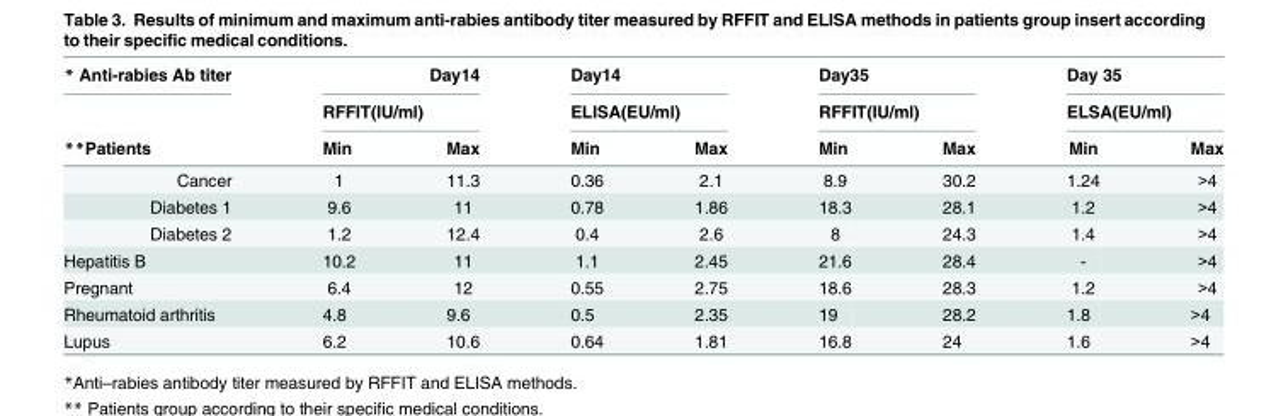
<table><thead><tr><td rowspan="3">* Anti-rabies Ab titer **Patients</td><td rowspan="2" colspan="2">Day14 RFFIT(IU/ml)</td><td rowspan="2" colspan="2">Day14 ELISA(EU/ml)</td><td rowspan="2" colspan="2">Day35 RFFIT(IU/ml)</td><td rowspan="2" colspan="2">Day 35 ELSA(EU/ml)</td></tr><tr></tr><tr><td>Min</td><td>Max</td><td>Min</td><td>Max</td><td>Min</td><td>Max</td><td>Min</td><td>Max</td></tr></thead><tbody><tr><td>Cancer</td><td>1</td><td>11.3</td><td>0.36</td><td>2.1</td><td>8.9</td><td>30.2</td><td>1.24</td><td>&gt;4</td></tr><tr><td>Diabetes 1</td><td>9.6</td><td>11</td><td>0.78</td><td>1.86</td><td>18.3</td><td>28.1</td><td>1.2</td><td>&gt;4</td></tr><tr><td>Diabetes 2</td><td>1.2</td><td>12.4</td><td>0.4</td><td>2.6</td><td>8</td><td>24.3</td><td>1.4</td><td>&gt;4</td></tr><tr><td>Hepatitis B</td><td>10.2</td><td>11</td><td>1.1</td><td>2.45</td><td>21.6</td><td>28.4</td><td>-</td><td>&gt;4</td></tr><tr><td>Pregnant</td><td>6.4</td><td>12</td><td>0.55</td><td>2.75</td><td>18.6</td><td>28.3</td><td>1.2</td><td>&gt;4</td></tr><tr><td>Rheumatoid arthritis</td><td>4.8</td><td>9.6</td><td>0.5</td><td>2.35</td><td>19</td><td>28.2</td><td>1.8</td><td>&gt;4</td></tr><tr><td>Lupus</td><td>6.2</td><td>10.6</td><td>0.64</td><td>1.81</td><td>16.8</td><td>24</td><td>1.6</td><td>&gt;4</td></tr></tbody></table>